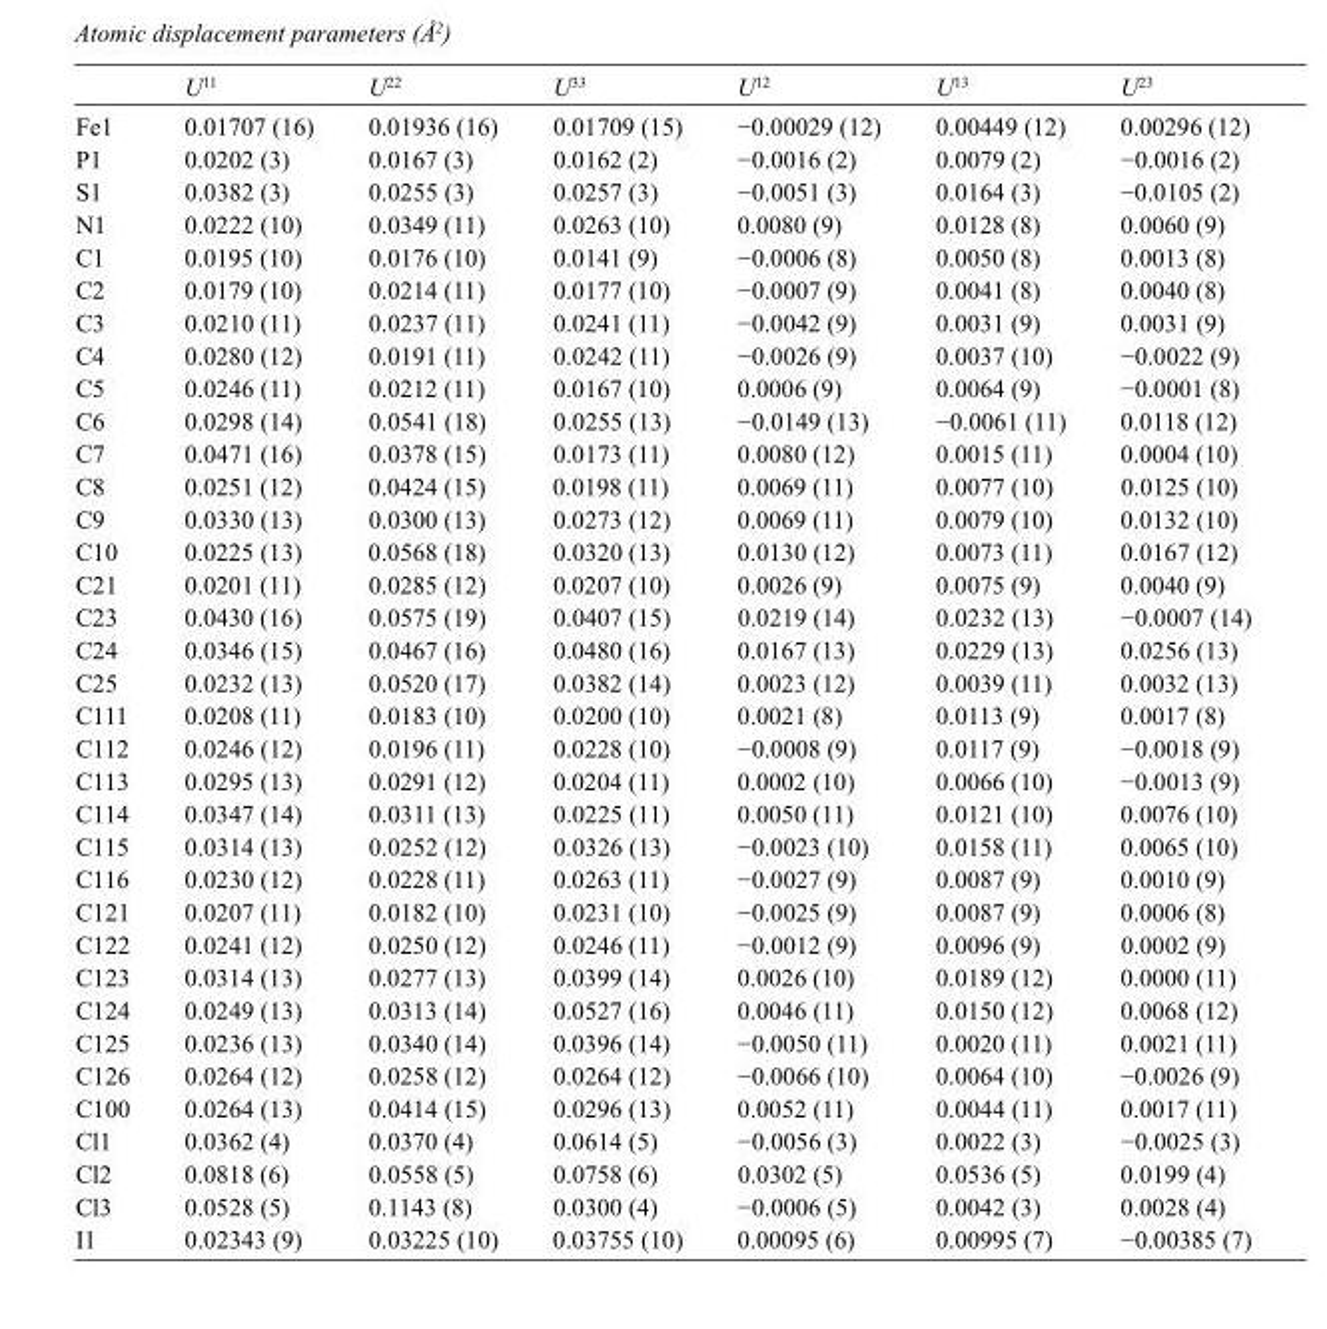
<table><thead><tr><td></td><td>U<sup>11</sup></td><td>U<sup>22</sup></td><td>U<sup>33</sup></td><td>U<sup>12</sup></td><td>U<sup>13</sup></td><td>U<sup>23</sup></td></tr></thead><tbody><tr><td>Fe1</td><td>0.01707 (16)</td><td>0.01936 (16)</td><td>0.01709 (15)</td><td>−0.00029 (12)</td><td>0.00449 (12)</td><td>0.00296 (12)</td></tr><tr><td>P1</td><td>0.0202 (3)</td><td>0.0167 (3)</td><td>0.0162 (2)</td><td>−0.0016 (2)</td><td>0.0079 (2)</td><td>−0.0016 (2)</td></tr><tr><td>S1</td><td>0.0382 (3)</td><td>0.0255 (3)</td><td>0.0257 (3)</td><td>−0.0051 (3)</td><td>0.0164 (3)</td><td>−0.0105 (2)</td></tr><tr><td>N1</td><td>0.0222 (10)</td><td>0.0349 (11)</td><td>0.0263 (10)</td><td>0.0080 (9)</td><td>0.0128 (8)</td><td>0.0060 (9)</td></tr><tr><td>C1</td><td>0.0195 (10)</td><td>0.0176 (10)</td><td>0.0141 (9)</td><td>−0.0006 (8)</td><td>0.0050 (8)</td><td>0.0013 (8)</td></tr><tr><td>C2</td><td>0.0179 (10)</td><td>0.0214 (11)</td><td>0.0177 (10)</td><td>−0.0007 (9)</td><td>0.0041 (8)</td><td>0.0040 (8)</td></tr><tr><td>C3</td><td>0.0210 (11)</td><td>0.0237 (11)</td><td>0.0241 (11)</td><td>−0.0042 (9)</td><td>0.0031 (9)</td><td>0.0031 (9)</td></tr><tr><td>C4</td><td>0.0280 (12)</td><td>0.0191 (11)</td><td>0.0242 (11)</td><td>−0.0026 (9)</td><td>0.0037 (10)</td><td>−0.0022 (9)</td></tr><tr><td>C5</td><td>0.0246 (11)</td><td>0.0212 (11)</td><td>0.0167 (10)</td><td>0.0006 (9)</td><td>0.0064 (9)</td><td>−0.0001 (8)</td></tr><tr><td>C6</td><td>0.0298 (14)</td><td>0.0541 (18)</td><td>0.0255 (13)</td><td>−0.0149 (13)</td><td>−0.0061 (11)</td><td>0.0118 (12)</td></tr><tr><td>C7</td><td>0.0471 (16)</td><td>0.0378 (15)</td><td>0.0173 (11)</td><td>0.0080 (12)</td><td>0.0015 (11)</td><td>0.0004 (10)</td></tr><tr><td>C8</td><td>0.0251 (12)</td><td>0.0424 (15)</td><td>0.0198 (11)</td><td>0.0069 (11)</td><td>0.0077 (10)</td><td>0.0125 (10)</td></tr><tr><td>C9</td><td>0.0330 (13)</td><td>0.0300 (13)</td><td>0.0273 (12)</td><td>0.0069 (11)</td><td>0.0079 (10)</td><td>0.0132 (10)</td></tr><tr><td>C10</td><td>0.0225 (13)</td><td>0.0568 (18)</td><td>0.0320 (13)</td><td>0.0130 (12)</td><td>0.0073 (11)</td><td>0.0167 (12)</td></tr><tr><td>C21</td><td>0.0201 (11)</td><td>0.0285 (12)</td><td>0.0207 (10)</td><td>0.0026 (9)</td><td>0.0075 (9)</td><td>0.0040 (9)</td></tr><tr><td>C23</td><td>0.0430 (16)</td><td>0.0575 (19)</td><td>0.0407 (15)</td><td>0.0219 (14)</td><td>0.0232 (13)</td><td>−0.0007 (14)</td></tr><tr><td>C24</td><td>0.0346 (15)</td><td>0.0467 (16)</td><td>0.0480 (16)</td><td>0.0167 (13)</td><td>0.0229 (13)</td><td>0.0256 (13)</td></tr><tr><td>C25</td><td>0.0232 (13)</td><td>0.0520 (17)</td><td>0.0382 (14)</td><td>0.0023 (12)</td><td>0.0039 (11)</td><td>0.0032 (13)</td></tr><tr><td>C111</td><td>0.0208 (11)</td><td>0.0183 (10)</td><td>0.0200 (10)</td><td>0.0021 (8)</td><td>0.0113 (9)</td><td>0.0017 (8)</td></tr><tr><td>C112</td><td>0.0246 (12)</td><td>0.0196 (11)</td><td>0.0228 (10)</td><td>−0.0008 (9)</td><td>0.0117 (9)</td><td>−0.0018 (9)</td></tr><tr><td>C113</td><td>0.0295 (13)</td><td>0.0291 (12)</td><td>0.0204 (11)</td><td>0.0002 (10)</td><td>0.0066 (10)</td><td>−0.0013 (9)</td></tr><tr><td>C114</td><td>0.0347 (14)</td><td>0.0311 (13)</td><td>0.0225 (11)</td><td>0.0050 (11)</td><td>0.0121 (10)</td><td>0.0076 (10)</td></tr><tr><td>C115</td><td>0.0314 (13)</td><td>0.0252 (12)</td><td>0.0326 (13)</td><td>−0.0023 (10)</td><td>0.0158 (11)</td><td>0.0065 (10)</td></tr><tr><td>C116</td><td>0.0230 (12)</td><td>0.0228 (11)</td><td>0.0263 (11)</td><td>−0.0027 (9)</td><td>0.0087 (9)</td><td>0.0010 (9)</td></tr><tr><td>C121</td><td>0.0207 (11)</td><td>0.0182 (10)</td><td>0.0231 (10)</td><td>−0.0025 (9)</td><td>0.0087 (9)</td><td>0.0006 (8)</td></tr><tr><td>C122</td><td>0.0241 (12)</td><td>0.0250 (12)</td><td>0.0246 (11)</td><td>−0.0012 (9)</td><td>0.0096 (9)</td><td>0.0002 (9)</td></tr><tr><td>C123</td><td>0.0314 (13)</td><td>0.0277 (13)</td><td>0.0399 (14)</td><td>0.0026 (10)</td><td>0.0189 (12)</td><td>0.0000 (11)</td></tr><tr><td>C124</td><td>0.0249 (13)</td><td>0.0313 (14)</td><td>0.0527 (16)</td><td>0.0046 (11)</td><td>0.0150 (12)</td><td>0.0068 (12)</td></tr><tr><td>C125</td><td>0.0236 (13)</td><td>0.0340 (14)</td><td>0.0396 (14)</td><td>−0.0050 (11)</td><td>0.0020 (11)</td><td>0.0021 (11)</td></tr><tr><td>C126</td><td>0.0264 (12)</td><td>0.0258 (12)</td><td>0.0264 (12)</td><td>−0.0066 (10)</td><td>0.0064 (10)</td><td>−0.0026 (9)</td></tr><tr><td>C100</td><td>0.0264 (13)</td><td>0.0414 (15)</td><td>0.0296 (13)</td><td>0.0052 (11)</td><td>0.0044 (11)</td><td>0.0017 (11)</td></tr><tr><td>Cl1</td><td>0.0362 (4)</td><td>0.0370 (4)</td><td>0.0614 (5)</td><td>−0.0056 (3)</td><td>0.0022 (3)</td><td>−0.0025 (3)</td></tr><tr><td>Cl2</td><td>0.0818 (6)</td><td>0.0558 (5)</td><td>0.0758 (6)</td><td>0.0302 (5)</td><td>0.0536 (5)</td><td>0.0199 (4)</td></tr><tr><td>Cl3</td><td>0.0528 (5)</td><td>0.1143 (8)</td><td>0.0300 (4)</td><td>−0.0006 (5)</td><td>0.0042 (3)</td><td>0.0028 (4)</td></tr><tr><td>I1</td><td>0.02343 (9)</td><td>0.03225 (10)</td><td>0.03755 (10)</td><td>0.00095 (6)</td><td>0.00995 (7)</td><td>−0.00385 (7)</td></tr></tbody></table>